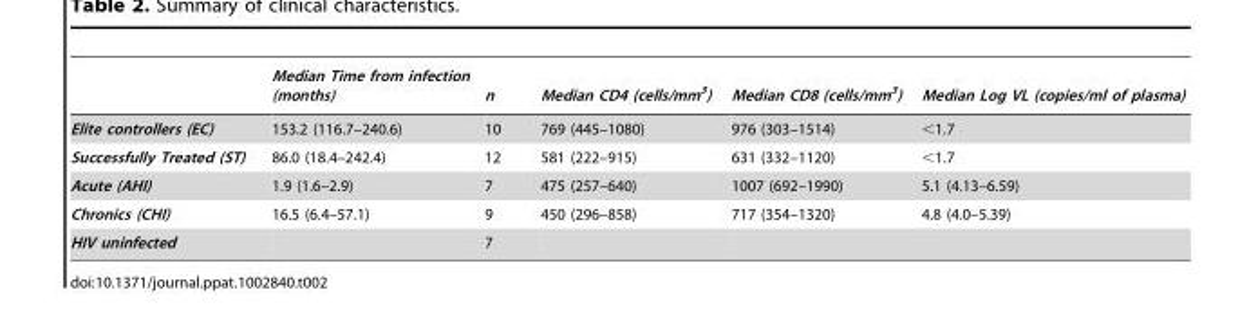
<table><thead><tr><td></td><td>Median Time from infection (months)</td><td>n</td><td>Median CD4 (cells/mm<sup>3</sup>)</td><td>Median CD8 (cells/mm<sup>3</sup>)</td><td>Median Log VL (copies/ml of plasma)</td></tr></thead><tbody><tr><td>Elite controllers (EC)</td><td>153.2 (116.7–240.6)</td><td>10</td><td>769 (445–1080)</td><td>976 (303–1514)</td><td>&lt;1.7</td></tr><tr><td>Successfully Treated (ST)</td><td>86.0 (18.4–242.4)</td><td>12</td><td>581 (222–915)</td><td>631 (332–1120)</td><td>&lt;1.7</td></tr><tr><td>Acute (AHI)</td><td>1.9 (1.6–2.9)</td><td>7</td><td>475 (257–640)</td><td>1007 (692–1990)</td><td>5.1 (4.13–6.59)</td></tr><tr><td>Chronics (CHI)</td><td>16.5 (6.4–57.1)</td><td>9</td><td>450 (296–858)</td><td>717 (354–1320)</td><td>4.8 (4.0–5.39)</td></tr><tr><td>HIV uninfected</td><td></td><td>7</td><td></td><td></td><td></td></tr></tbody></table>